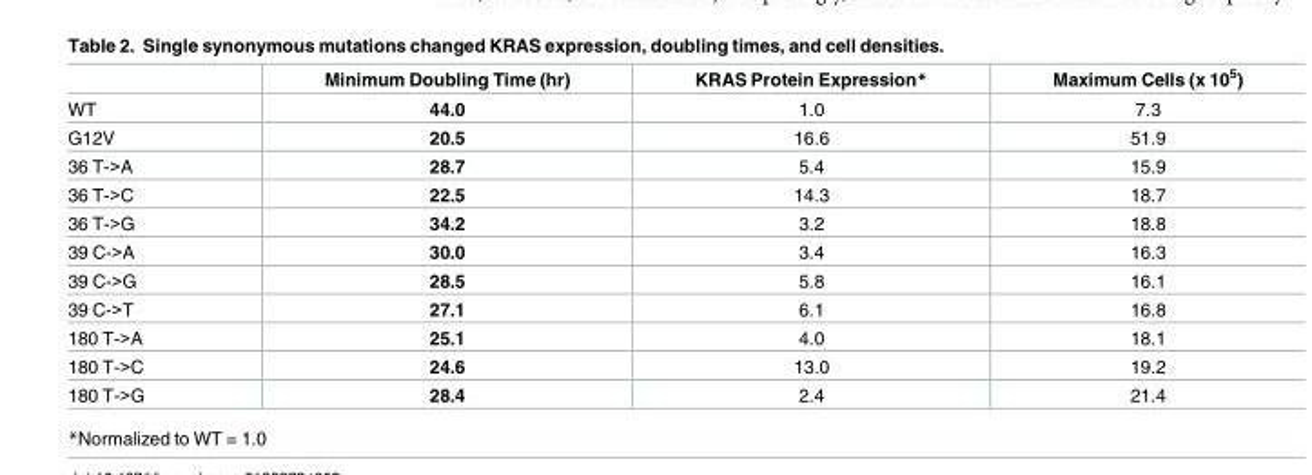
<table><thead><tr><td></td><td>Minimum Doubling Time (hr)</td><td>KRAS Protein Expression*</td><td>Maximum Cells (x 10<sup>5</sup>)</td></tr></thead><tbody><tr><td>WT</td><td>44.0</td><td>1.0</td><td>7.3</td></tr><tr><td>G12V</td><td>20.5</td><td>16.6</td><td>51.9</td></tr><tr><td>36 T-&gt;A</td><td>28.7</td><td>5.4</td><td>15.9</td></tr><tr><td>36 T-&gt;C</td><td>22.5</td><td>14.3</td><td>18.7</td></tr><tr><td>36 T-&gt;G</td><td>34.2</td><td>3.2</td><td>18.8</td></tr><tr><td>39 C-&gt;A</td><td>30.0</td><td>3.4</td><td>16.3</td></tr><tr><td>39 C-&gt;G</td><td>28.5</td><td>5.8</td><td>16.1</td></tr><tr><td>39 C-&gt;T</td><td>27.1</td><td>6.1</td><td>16.8</td></tr><tr><td>180 T-&gt;A</td><td>25.1</td><td>4.0</td><td>18.1</td></tr><tr><td>180 T-&gt;C</td><td>24.6</td><td>13.0</td><td>19.2</td></tr><tr><td>180 T-&gt;G</td><td>28.4</td><td>2.4</td><td>21.4</td></tr></tbody></table>